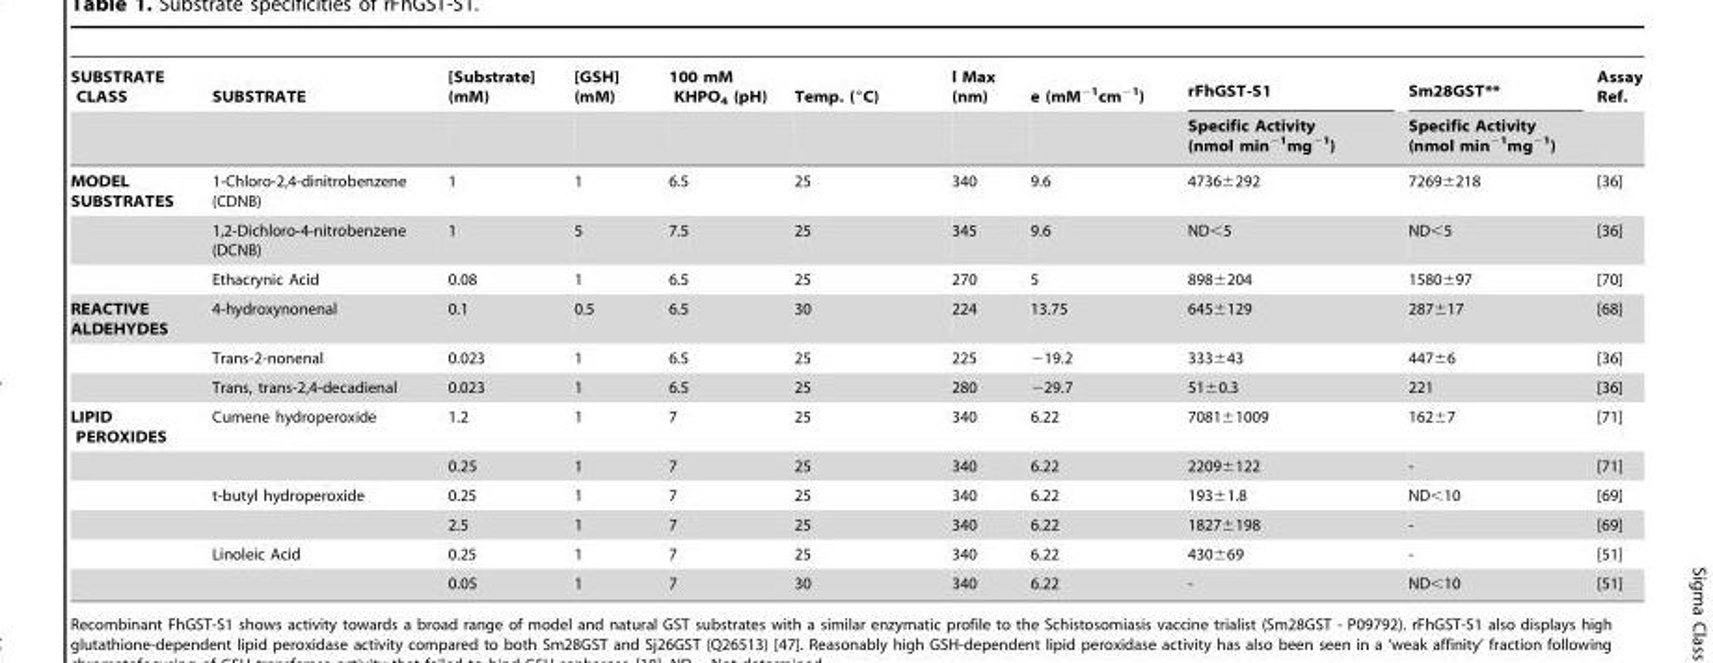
<table><thead><tr><td rowspan="2">SUBSTRATE CLASS</td><td rowspan="2">SUBSTRATE</td><td rowspan="2">[Substrate] (mM)</td><td rowspan="2">[GSH] (mM)</td><td rowspan="2">100 mM KHPO<sub>4</sub> (pH)</td><td rowspan="2">Temp. (°C)</td><td rowspan="2">l Max (nm)</td><td rowspan="2">e (mM<sup>−1</sup>cm<sup>−1</sup>)</td><td rowspan="2">rFhGST-S1 Specific Activity (nmol min<sup>−1</sup>mg<sup>−1</sup>)</td><td rowspan="2">Sm28GST** Specific Activity (nmol min<sup>−1</sup>mg<sup>−1</sup>)</td><td rowspan="2">Assay Ref.</td></tr><tr></tr></thead><tbody><tr><td rowspan="3">MODEL SUBSTRATES</td><td>1-Chloro-2,4-dinitrobenzene (CDNB)</td><td>1</td><td>1</td><td>6.5</td><td>25</td><td>340</td><td>9.6</td><td>4736±292</td><td>7269±218</td><td>[36]</td></tr><tr><td>1,2-Dichloro-4-nitrobenzene (DCNB)</td><td>1</td><td>5</td><td>7.5</td><td>25</td><td>345</td><td>9.6</td><td>ND&lt;5</td><td>ND&lt;5</td><td>[36]</td></tr><tr><td>Ethacrynic Acid</td><td>0.08</td><td>1</td><td>6.5</td><td>25</td><td>270</td><td>5</td><td>898±204</td><td>1580±97</td><td>[70]</td></tr><tr><td rowspan="3">REACTIVE ALDEHYDES</td><td>4-hydroxynonenal</td><td>0.1</td><td>0.5</td><td>6.5</td><td>30</td><td>224</td><td>13.75</td><td>645±129</td><td>287±17</td><td>[68]</td></tr><tr><td>Trans-2-nonenal</td><td>0.023</td><td>1</td><td>6.5</td><td>25</td><td>225</td><td>−19.2</td><td>333±43</td><td>447±6</td><td>[36]</td></tr><tr><td>Trans, trans-2,4-decadienal</td><td>0.023</td><td>1</td><td>6.5</td><td>25</td><td>280</td><td>−29.7</td><td>51±0.3</td><td>221</td><td>[36]</td></tr><tr><td rowspan="6">LIPID PEROXIDES</td><td>Cumene hydroperoxide</td><td>1.2</td><td>1</td><td>7</td><td>25</td><td>340</td><td>6.22</td><td>7081±1009</td><td>162±7</td><td>[71]</td></tr><tr><td></td><td>0.25</td><td>1</td><td>7</td><td>25</td><td>340</td><td>6.22</td><td>2209±122</td><td>-</td><td>[71]</td></tr><tr><td>t-butyl hydroperoxide</td><td>0.25</td><td>1</td><td>7</td><td>25</td><td>340</td><td>6.22</td><td>193±1.8</td><td>ND&lt;10</td><td>[69]</td></tr><tr><td></td><td>2.5</td><td>1</td><td>7</td><td>25</td><td>340</td><td>6.22</td><td>1827±198</td><td>-</td><td>[69]</td></tr><tr><td>Linoleic Acid</td><td>0.25</td><td>1</td><td>7</td><td>25</td><td>340</td><td>6.22</td><td>430±69</td><td>-</td><td>[51]</td></tr><tr><td></td><td>0.05</td><td>1</td><td>7</td><td>30</td><td>340</td><td>6.22</td><td>-</td><td>ND&lt;10</td><td>[51]</td></tr></tbody></table>